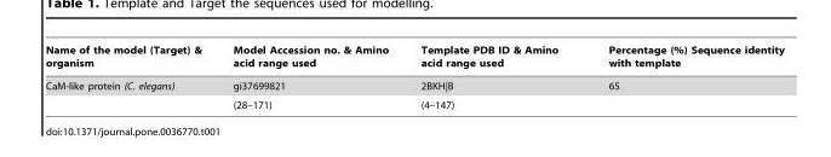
<table><thead><tr><td>Name of the model (Target) &amp; organism</td><td>Model Accession no. &amp; Amino acid range used</td><td>Template PDB ID &amp; Amino acid range used</td><td>Percentage (%) Sequence identity with template</td></tr></thead><tbody><tr><td rowspan="2">CaM-like protein (C. elegans)</td><td>gi37699821</td><td>2BKH|B</td><td>65</td></tr><tr><td>(28–171)</td><td>(4–147)</td><td></td></tr></tbody></table>